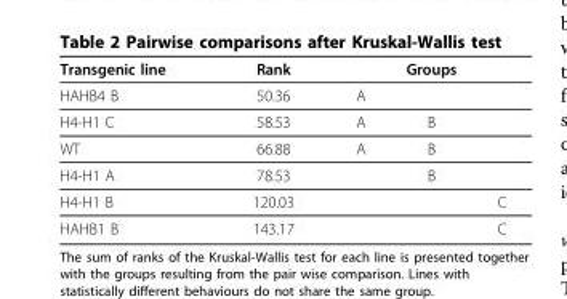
<table><thead><tr><td rowspan="2">Transgenic line HAHB4 B</td><td rowspan="2">Rank 50.36</td><td colspan="3">Groups</td></tr><tr><td>A</td><td></td><td></td></tr></thead><tbody><tr><td>H4-H1 C</td><td>58.53</td><td>A</td><td>B</td><td></td></tr><tr><td>WT</td><td>66.88</td><td>A</td><td>B</td><td></td></tr><tr><td>H4-H1 A</td><td>78.53</td><td></td><td>B</td><td></td></tr><tr><td>H4-H1 B</td><td>120.03</td><td></td><td></td><td>C</td></tr><tr><td>HAHB1 B</td><td>143.17</td><td></td><td></td><td>C</td></tr></tbody></table>